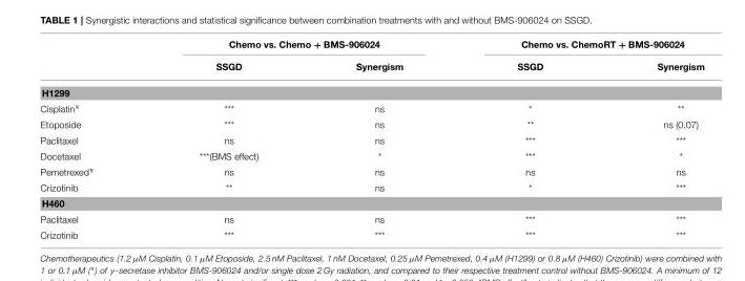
<table><thead><tr><td rowspan="2"></td><td colspan="2">Chemo vs. Chemo + BMS-906024</td><td colspan="2">Chemo vs. ChemoRT + BMS-906024</td></tr><tr><td>SSGD</td><td>Synergism</td><td>SSGD</td><td>Synergism</td></tr></thead><tbody><tr><td colspan="5">H1299</td></tr><tr><td>CisplatinÈ</td><td>***</td><td>ns</td><td>*</td><td>**</td></tr><tr><td>Etoposide</td><td>***</td><td>ns</td><td>**</td><td>ns (0.07)</td></tr><tr><td>Paclitaxel</td><td>ns</td><td>ns</td><td>***</td><td>***</td></tr><tr><td>Docetaxel</td><td>***(BMS effect)</td><td>*</td><td>***</td><td>*</td></tr><tr><td>PemetrexedÈ</td><td>ns</td><td>ns</td><td>ns</td><td>ns</td></tr><tr><td>Crizotinib</td><td>**</td><td>ns</td><td>*</td><td>***</td></tr><tr><td colspan="5">H460</td></tr><tr><td>Paclitaxel</td><td>ns</td><td>ns</td><td>***</td><td>***</td></tr><tr><td>Crizotinib</td><td>***</td><td>***</td><td>***</td><td>***</td></tr></tbody></table>